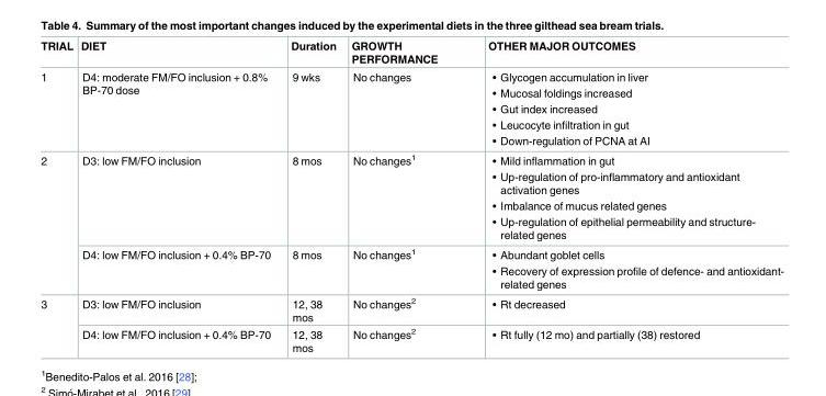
<table><thead><tr><td>TRIAL</td><td>DIET</td><td>Duration</td><td>GROWTH PERFORMANCE</td><td>OTHER MAJOR OUTCOMES</td></tr></thead><tbody><tr><td>1</td><td>D4: moderate FM/FO inclusion + 0.8% BP-70 dose</td><td>9 wks</td><td>No changes</td><td>• Glycogen accumulation in liver • Mucosal foldings increased • Gut index increased • Leucocyte infiltration in gut • Down-regulation of PCNA at AI</td></tr><tr><td rowspan="2">2</td><td>D3: low FM/FO inclusion</td><td>8 mos</td><td>No changes<sup>1</sup></td><td>• Mild inflammation in gut • Up-regulation of pro-inflammatory and antioxidant activation genes • Imbalance of mucus related genes • Up-regulation of epithelial permeability and structure- related genes</td></tr><tr><td>D4: low FM/FO inclusion + 0.4% BP-70</td><td>8 mos</td><td>No changes<sup>1</sup></td><td>• Abundant goblet cells • Recovery of expression profile of defence- and antioxidant- related genes</td></tr><tr><td rowspan="2">3</td><td>D3: low FM/FO inclusion</td><td>12, 38 mos</td><td>No changes<sup>2</sup></td><td>• Rt decreased</td></tr><tr><td>D4: low FM/FO inclusion + 0.4% BP-70</td><td>12, 38 mos</td><td>No changes<sup>2</sup></td><td>• Rt fully (12 mo) and partially (38) restored</td></tr></tbody></table>